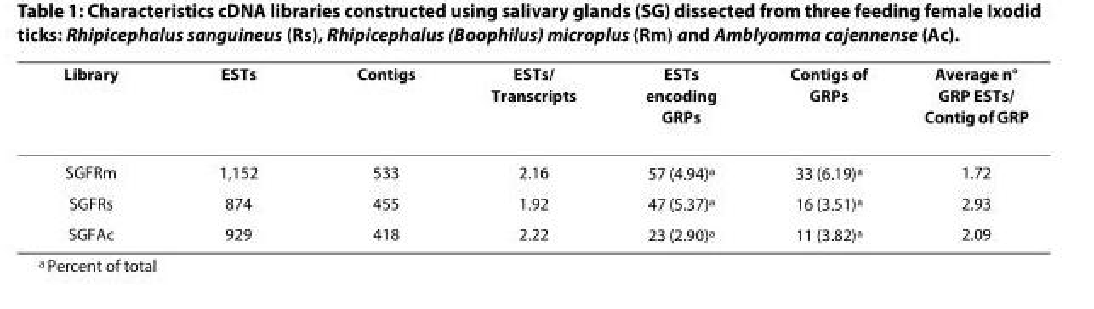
<table><thead><tr><td>Library</td><td>ESTs</td><td>Contigs</td><td>ESTs/ Transcripts</td><td>ESTs encoding GRPs</td><td>Contigs of GRPs</td><td>Average n° GRP ESTs/ Contig of GRP</td></tr></thead><tbody><tr><td>SGFRm</td><td>1,152</td><td>533</td><td>2.16</td><td>57 (4.94)<sup>a</sup></td><td>33 (6.19)<sup>a</sup></td><td>1.72</td></tr><tr><td>SGFRs</td><td>874</td><td>455</td><td>1.92</td><td>47 (5.37)<sup>a</sup></td><td>16 (3.51)<sup>a</sup></td><td>2.93</td></tr><tr><td>SGFAc</td><td>929</td><td>418</td><td>2.22</td><td>23 (2.90)<sup>a</sup></td><td>11 (3.82)<sup>a</sup></td><td>2.09</td></tr></tbody></table>